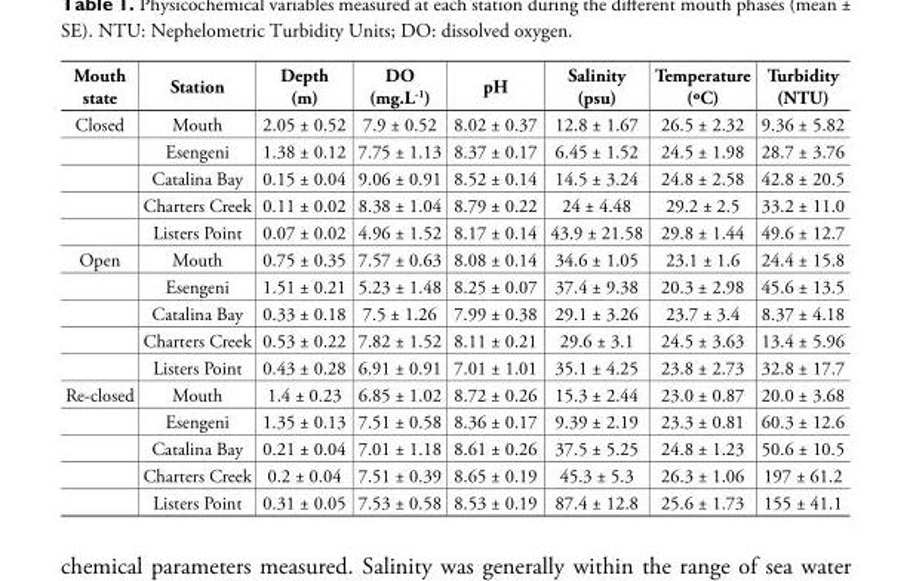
<table><thead><tr><td>Mouth state</td><td>Station</td><td>Depth (m)</td><td>DO (mg.<sup>L-</sup>1)</td><td>pH</td><td>Salinity (psu)</td><td>Temperature (ºC)</td><td>Turbidity (NTU)</td></tr></thead><tbody><tr><td rowspan="5">Closed</td><td>Mouth</td><td>2.05 ± 0.52</td><td>7.9 ± 0.52</td><td>8.02 ± 0.37</td><td>12.8 ± 1.67</td><td>26.5 ± 2.32</td><td>9.36 ± 5.82</td></tr><tr><td>Esengeni</td><td>1.38 ± 0.12</td><td>7.75 ± 1.13</td><td>8.37 ± 0.17</td><td>6.45 ± 1.52</td><td>24.5 ± 1.98</td><td>28.7 ± 3.76</td></tr><tr><td>Catalina Bay</td><td>0.15 ± 0.04</td><td>9.06 ± 0.91</td><td>8.52 ± 0.14</td><td>14.5 ± 3.24</td><td>24.8 ± 2.58</td><td>42.8 ± 20.5</td></tr><tr><td>Charters Creek</td><td>0.11 ± 0.02</td><td>8.38 ± 1.04</td><td>8.79 ± 0.22</td><td>24 ± 4.48</td><td>29.2 ± 2.5</td><td>33.2 ± 11.0</td></tr><tr><td>Listers Point</td><td>0.07 ± 0.02</td><td>4.96 ± 1.52</td><td>8.17 ± 0.14</td><td>43.9 ± 21.58</td><td>29.8 ± 1.44</td><td>49.6 ± 12.7</td></tr><tr><td rowspan="5">Open</td><td>Mouth</td><td>0.75 ± 0.35</td><td>7.57 ± 0.63</td><td>8.08 ± 0.14</td><td>34.6 ± 1.05</td><td>23.1 ± 1.6</td><td>24.4 ± 15.8</td></tr><tr><td>Esengeni</td><td>1.51 ± 0.21</td><td>5.23 ± 1.48</td><td>8.25 ± 0.07</td><td>37.4 ± 9.38</td><td>20.3 ± 2.98</td><td>45.6 ± 13.5</td></tr><tr><td>Catalina Bay</td><td>0.33 ± 0.18</td><td>7.5 ± 1.26</td><td>7.99 ± 0.38</td><td>29.1 ± 3.26</td><td>23.7 ± 3.4</td><td>8.37 ± 4.18</td></tr><tr><td>Charters Creek</td><td>0.53 ± 0.22</td><td>7.82 ± 1.52</td><td>8.11 ± 0.21</td><td>29.6 ± 3.1</td><td>24.5 ± 3.63</td><td>13.4 ± 5.96</td></tr><tr><td>Listers Point</td><td>0.43 ± 0.28</td><td>6.91 ± 0.91</td><td>7.01 ± 1.01</td><td>35.1 ± 4.25</td><td>23.8 ± 2.73</td><td>32.8 ± 17.7</td></tr><tr><td rowspan="5">Re-closed</td><td>Mouth</td><td>1.4 ± 0.23</td><td>6.85 ± 1.02</td><td>8.72 ± 0.26</td><td>15.3 ± 2.44</td><td>23.0 ± 0.87</td><td>20.0 ± 3.68</td></tr><tr><td>Esengeni</td><td>1.35 ± 0.13</td><td>7.51 ± 0.58</td><td>8.36 ± 0.17</td><td>9.39 ± 2.19</td><td>23.3 ± 0.81</td><td>60.3 ± 12.6</td></tr><tr><td>Catalina Bay</td><td>0.21 ± 0.04</td><td>7.01 ± 1.18</td><td>8.61 ± 0.26</td><td>37.5 ± 5.25</td><td>24.8 ± 1.23</td><td>50.6 ± 10.5</td></tr><tr><td>Charters Creek</td><td>0.2 ± 0.04</td><td>7.51 ± 0.39</td><td>8.65 ± 0.19</td><td>45.3 ± 5.3</td><td>26.3 ± 1.06</td><td>197 ± 61.2</td></tr><tr><td>Listers Point</td><td>0.31 ± 0.05</td><td>7.53 ± 0.58</td><td>8.53 ± 0.19</td><td>87.4 ± 12.8</td><td>25.6 ± 1.73</td><td>155 ± 41.1</td></tr></tbody></table>